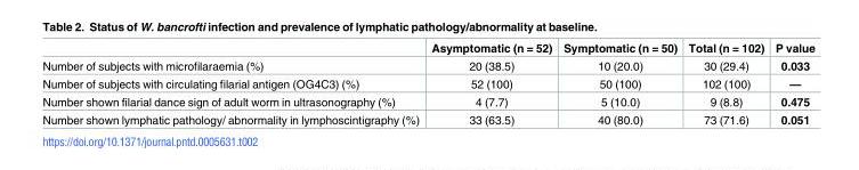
<table><thead><tr><td></td><td>Asymptomatic (n = 52)</td><td>Symptomatic (n = 50)</td><td>Total (n = 102)</td><td>P value</td></tr></thead><tbody><tr><td>Number of subjects with microfilaraemia (%)</td><td>20 (38.5)</td><td>10 (20.0)</td><td>30 (29.4)</td><td>0.033</td></tr><tr><td>Number of subjects with circulating filarial antigen (OG4C3) (%)</td><td>52 (100)</td><td>50 (100)</td><td>102 (100)</td><td>—</td></tr><tr><td>Number shown filarial dance sign of adult worm in ultrasonography (%)</td><td>4 (7.7)</td><td>5 (10.0)</td><td>9 (8.8)</td><td>0.475</td></tr><tr><td>Number shown lymphatic pathology/ abnormality in lymphoscintigraphy (%)</td><td>33 (63.5)</td><td>40 (80.0)</td><td>73 (71.6)</td><td>0.051</td></tr></tbody></table>